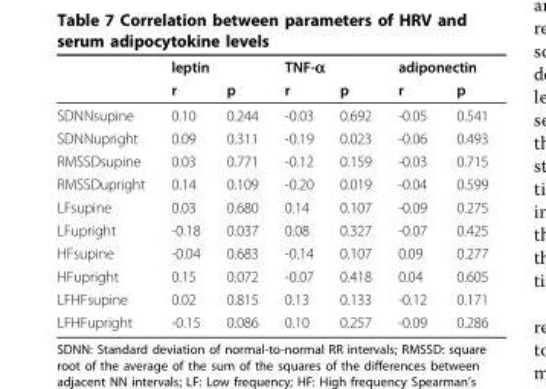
<table><thead><tr><td rowspan="2"></td><td colspan="2">leptin</td><td colspan="2">TNF-α</td><td colspan="2">adiponectin</td></tr><tr><td>r</td><td>p</td><td>r</td><td>p</td><td>r</td><td>p</td></tr></thead><tbody><tr><td>SDNNsupine</td><td>0.10</td><td>0.244</td><td>-0.03</td><td>0.692</td><td>-0.05</td><td>0.541</td></tr><tr><td>SDNNupright</td><td>0.09</td><td>0.311</td><td>-0.19</td><td>0.023</td><td>-0.06</td><td>0.493</td></tr><tr><td>RMSSDsupine</td><td>0.03</td><td>0.771</td><td>-0.12</td><td>0.159</td><td>-0.03</td><td>0.715</td></tr><tr><td>RMSSDupright</td><td>0.14</td><td>0.109</td><td>-0.20</td><td>0.019</td><td>-0.04</td><td>0.599</td></tr><tr><td>LFsupine</td><td>0.03</td><td>0.680</td><td>0.14</td><td>0.107</td><td>-0.09</td><td>0.275</td></tr><tr><td>LFupright</td><td>-0.18</td><td>0.037</td><td>0.08</td><td>0.327</td><td>-0.07</td><td>0.425</td></tr><tr><td>HFsupine</td><td>-0.04</td><td>0.683</td><td>-0.14</td><td>0.107</td><td>0.09</td><td>0.277</td></tr><tr><td>HFupright</td><td>0.15</td><td>0.072</td><td>-0.07</td><td>0.418</td><td>0.04</td><td>0.605</td></tr><tr><td>LFHFsupine</td><td>0.02</td><td>0.815</td><td>0.13</td><td>0.133</td><td>-0.12</td><td>0.171</td></tr><tr><td>LFHFupright</td><td>-0.15</td><td>0.086</td><td>0.10</td><td>0.257</td><td>-0.09</td><td>0.286</td></tr></tbody></table>